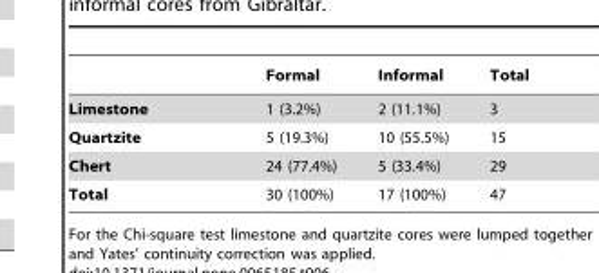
<table><thead><tr><td></td><td>Formal</td><td>Informal</td><td>Total</td></tr></thead><tbody><tr><td>Limestone</td><td>1 (3.2%)</td><td>2 (11.1%)</td><td>3</td></tr><tr><td>Quartzite</td><td>5 (19.3%)</td><td>10 (55.5%)</td><td>15</td></tr><tr><td>Chert</td><td>24 (77.4%)</td><td>5 (33.4%)</td><td>29</td></tr><tr><td>Total</td><td>30 (100%)</td><td>17 (100%)</td><td>47</td></tr></tbody></table>